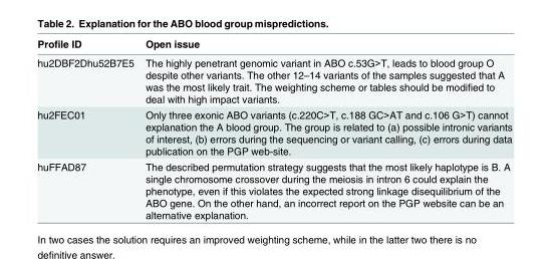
<table><thead><tr><td>Profile ID</td><td>Open issue</td></tr></thead><tbody><tr><td>hu2DBF2Dhu52B7E5</td><td>The highly penetrant genomic variant in ABO c.53G&gt;T, leads to blood group O despite other variants. The other 12–14 variants of the samples suggested that A was the most likely trait. The weighting scheme or tables should be modified to deal with high impact variants.</td></tr><tr><td>hu2FEC01</td><td>Only three exonic ABO variants (c.220C&gt;T, c.188 GC&gt;AT and c.106 G&gt;T) cannot explanation the A blood group. The group is related to (a) possible intronic variants of interest, (b) errors during the sequencing or variant calling, (c) errors during data publication on the PGP web-site.</td></tr><tr><td>huFFAD87</td><td>The described permutation strategy suggests that the most likely haplotype is B. A single chromosome crossover during the meiosis in intron 6 could explain the phenotype, even if this violates the expected strong linkage disequilibrium of the ABO gene. On the other hand, an incorrect report on the PGP website can be an alternative explanation.</td></tr></tbody></table>